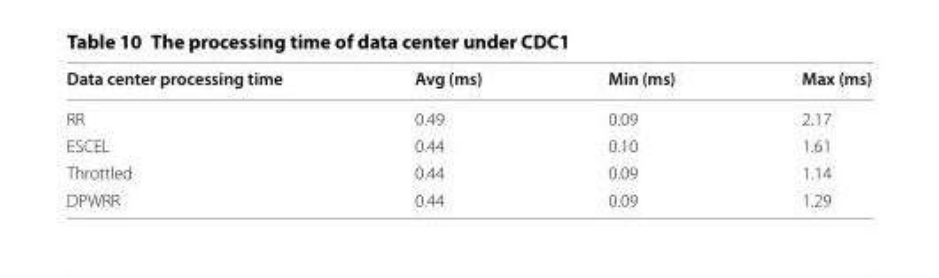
<table><thead><tr><td>Data center processing time</td><td>Avg (ms)</td><td>Min (ms)</td><td>Max (ms)</td></tr></thead><tbody><tr><td>RR</td><td>0.49</td><td>0.09</td><td>2.17</td></tr><tr><td>ESCEL</td><td>0.44</td><td>0.10</td><td>1.61</td></tr><tr><td>Throttled</td><td>0.44</td><td>0.09</td><td>1.14</td></tr><tr><td>DPWRR</td><td>0.44</td><td>0.09</td><td>1.29</td></tr></tbody></table>